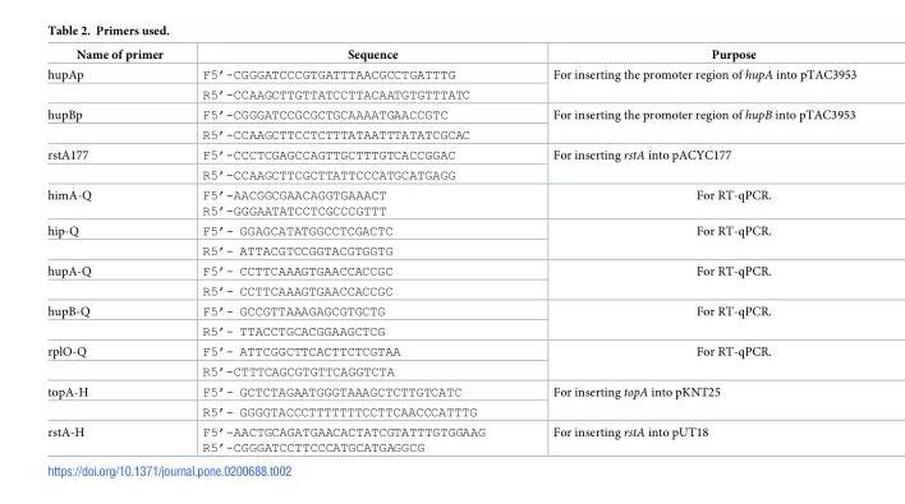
<table><thead><tr><td>Name of primer</td><td>Sequence</td><td>Purpose</td></tr></thead><tbody><tr><td rowspan="2">hupAp</td><td>F5’-CGGGATCCCGTGATTTAACGCCTGATTTG</td><td rowspan="2">For inserting the promoter region of hupA into pTAC3953</td></tr><tr><td>R5’-CCAAGCTTGTTATCCTTACAATGTGTTTATC</td></tr><tr><td rowspan="2">hupBp</td><td>F5’-CGGGATCCGCGCTGCAAAATGAACCGTC</td><td rowspan="2">For inserting the promoter region of hupB into pTAC3953</td></tr><tr><td>R5’-CCAAGCTTCCTCTTTATAATTTATATCGCAC</td></tr><tr><td rowspan="2">rstA177</td><td>F5’-CCCTCGAGCCAGTTGCTTTGTCACCGGAC</td><td rowspan="2">For inserting rstA into pACYC177</td></tr><tr><td>R5’-CCAAGCTTCGCTTATTCCCATGCATGAGG</td></tr><tr><td>himA-Q</td><td>F5’-AACGGCGAACAGGTGAAACT R5’-GGGAATATCCTCGCCCGTTT</td><td>For RT-qPCR.</td></tr><tr><td rowspan="2">hip-Q</td><td>F5’- GGAGCATATGGCCTCGACTC</td><td rowspan="2">For RT-qPCR.</td></tr><tr><td>R5’- ATTACGTCCGGTACGTGGTG</td></tr><tr><td rowspan="2">hupA-Q</td><td>F5’- CCTTCAAAGTGAACCACCGC</td><td rowspan="2">For RT-qPCR.</td></tr><tr><td>R5’- CCTTCAAAGTGAACCACCGC</td></tr><tr><td rowspan="2">hupB-Q</td><td>F5’- GCCGTTAAAGAGCGTGCTG</td><td rowspan="2">For RT-qPCR.</td></tr><tr><td>R5’- TTACCTGCACGGAAGCTCG</td></tr><tr><td rowspan="2">rplO-Q</td><td>F5’- ATTCGGCTTCACTTCTCGTAA</td><td rowspan="2">For RT-qPCR.</td></tr><tr><td>R5’-CTTTCAGCGTGTTCAGGTCTA</td></tr><tr><td rowspan="2">topA-H</td><td>F5’- GCTCTAGAATGGGTAAAGCTCTTGTCATC</td><td rowspan="2">For inserting topA into pKNT25</td></tr><tr><td>R5’- GGGGTACCCTTTTTTTCCTTCAACCCATTTG</td></tr><tr><td>rstA-H</td><td>F5’-AACTGCAGATGAACACTATCGTATTTGTGGAAG R5’-CGGGATCCTTCCCATGCATGAGGCG</td><td>For inserting rstA into pUT18</td></tr></tbody></table>